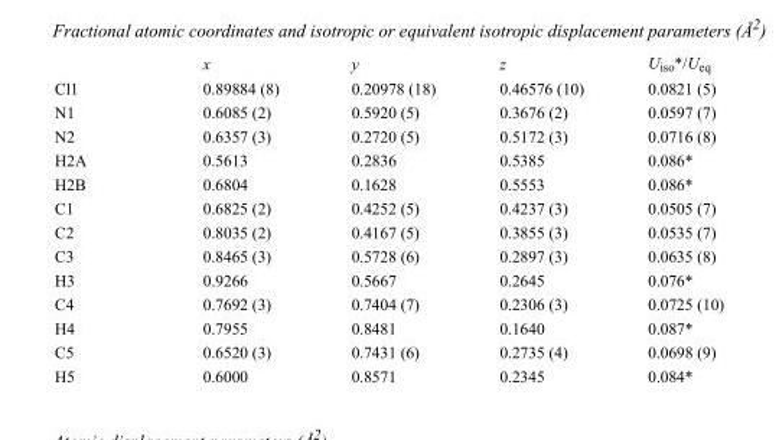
<table><thead><tr><td></td><td>x</td><td>y</td><td>z</td><td>U<sub>iso</sub>*/U<sub>eq</sub></td></tr></thead><tbody><tr><td>Cl1</td><td>0.89884 (8)</td><td>0.20978 (18)</td><td>0.46576 (10)</td><td>0.0821 (5)</td></tr><tr><td>N1</td><td>0.6085 (2)</td><td>0.5920 (5)</td><td>0.3676 (2)</td><td>0.0597 (7)</td></tr><tr><td>N2</td><td>0.6357 (3)</td><td>0.2720 (5)</td><td>0.5172 (3)</td><td>0.0716 (8)</td></tr><tr><td>H2A</td><td>0.5613</td><td>0.2836</td><td>0.5385</td><td>0.086*</td></tr><tr><td>H2B</td><td>0.6804</td><td>0.1628</td><td>0.5553</td><td>0.086*</td></tr><tr><td>C1</td><td>0.6825 (2)</td><td>0.4252 (5)</td><td>0.4237 (3)</td><td>0.0505 (7)</td></tr><tr><td>C2</td><td>0.8035 (2)</td><td>0.4167 (5)</td><td>0.3855 (3)</td><td>0.0535 (7)</td></tr><tr><td>C3</td><td>0.8465 (3)</td><td>0.5728 (6)</td><td>0.2897 (3)</td><td>0.0635 (8)</td></tr><tr><td>H3</td><td>0.9266</td><td>0.5667</td><td>0.2645</td><td>0.076*</td></tr><tr><td>C4</td><td>0.7692 (3)</td><td>0.7404 (7)</td><td>0.2306 (3)</td><td>0.0725 (10)</td></tr><tr><td>H4</td><td>0.7955</td><td>0.8481</td><td>0.1640</td><td>0.087*</td></tr><tr><td>C5</td><td>0.6520 (3)</td><td>0.7431 (6)</td><td>0.2735 (4)</td><td>0.0698 (9)</td></tr><tr><td>H5</td><td>0.6000</td><td>0.8571</td><td>0.2345</td><td>0.084*</td></tr></tbody></table>